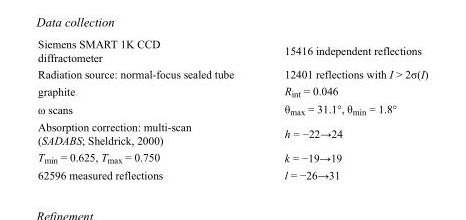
<table><tbody><tr><td>Siemens SMART 1K CCD diffractometer</td><td>15416 independent reflections</td></tr><tr><td>Radiation source: normal-focus sealed tube</td><td>12401 reflections with I &gt; 2σ(I)</td></tr><tr><td>graphite</td><td>R<sub>int</sub> = 0.046</td></tr><tr><td>ω scans</td><td>θ<sub>max</sub> = 31.1°, θ<sub>min</sub> = 1.8°</td></tr><tr><td>Absorption correction: multi-scan (SADABS; Sheldrick, 2000)</td><td>h = −22→24</td></tr><tr><td>T<sub>min</sub> = 0.625, T<sub>max</sub> = 0.750</td><td>k = −19→19</td></tr><tr><td>62596 measured reflections</td><td>l = −26→31</td></tr></tbody></table>